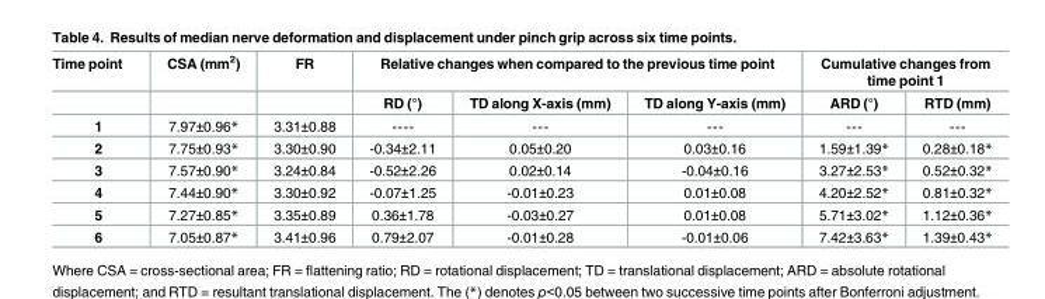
<table><thead><tr><td rowspan="2">Time point</td><td rowspan="2">CSA (mm<sup>2</sup>)</td><td rowspan="2">FR</td><td colspan="3">Relative changes when compared to the previous time point</td><td colspan="2">Cumulative changes from time point 1</td></tr><tr><td>RD (°)</td><td>TD along X-axis (mm)</td><td>TD along Y-axis (mm)</td><td>ARD (°)</td><td>RTD (mm)</td></tr></thead><tbody><tr><td>1</td><td>7.97±0.96*</td><td>3.31±0.88</td><td>----</td><td>---</td><td>---</td><td>---</td><td>---</td></tr><tr><td>2</td><td>7.75±0.93*</td><td>3.30±0.90</td><td>-0.34±2.11</td><td>0.05±0.20</td><td>0.03±0.16</td><td>1.59±1.39*</td><td>0.28±0.18*</td></tr><tr><td>3</td><td>7.57±0.90*</td><td>3.24±0.84</td><td>-0.52±2.26</td><td>0.02±0.14</td><td>-0.04±0.16</td><td>3.27±2.53*</td><td>0.52±0.32*</td></tr><tr><td>4</td><td>7.44±0.90*</td><td>3.30±0.92</td><td>-0.07±1.25</td><td>-0.01±0.23</td><td>0.01±0.08</td><td>4.20±2.52*</td><td>0.81±0.32*</td></tr><tr><td>5</td><td>7.27±0.85*</td><td>3.35±0.89</td><td>0.36±1.78</td><td>-0.03±0.27</td><td>0.01±0.08</td><td>5.71±3.02*</td><td>1.12±0.36*</td></tr><tr><td>6</td><td>7.05±0.87*</td><td>3.41±0.96</td><td>0.79±2.07</td><td>-0.01±0.28</td><td>-0.01±0.06</td><td>7.42±3.63*</td><td>1.39±0.43*</td></tr></tbody></table>